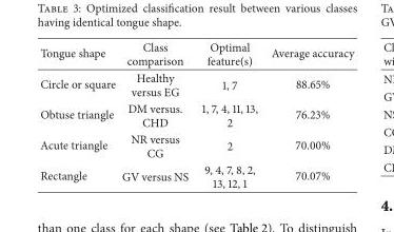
<table><thead><tr><td>Tongue shape</td><td>Class comparison</td><td>Optimal feature(s)</td><td>Average accuracy</td></tr></thead><tbody><tr><td>Circle or square</td><td>Healthy versus EG</td><td>1, 7</td><td>88.65%</td></tr><tr><td>Obtuse triangle</td><td>DM versus. CHD</td><td>1, 7, 4, 11, 13, 2</td><td>76.23%</td></tr><tr><td>Acute triangle</td><td>NR versus CG</td><td>2</td><td>70.00%</td></tr><tr><td>Rectangle</td><td>GV versus NS</td><td>9, 4, 7, 8, 2, 13, 12, 1</td><td>70.07%</td></tr></tbody></table>